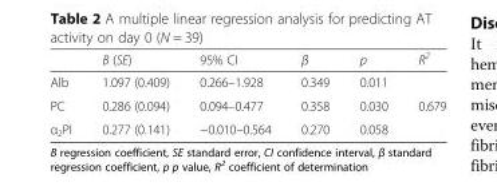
<table><thead><tr><td></td><td>B (SE)</td><td>95% CI</td><td>β</td><td>p</td><td>R<sup>2</sup></td></tr></thead><tbody><tr><td>Alb</td><td>1.097 (0.409)</td><td>0.266–1.928</td><td>0.349</td><td>0.011</td><td></td></tr><tr><td>PC</td><td>0.286 (0.094)</td><td>0.094–0.477</td><td>0.358</td><td>0.030</td><td>0.679</td></tr><tr><td>α<sub>2</sub>PI</td><td>0.277 (0.141)</td><td>−0.010–0.564</td><td>0.270</td><td>0.058</td><td></td></tr></tbody></table>